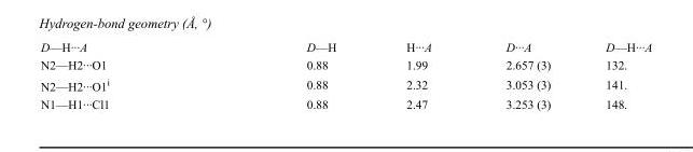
<table><tbody><tr><td>D—H···A</td><td>D—H</td><td>H···A</td><td>D···A</td><td>D—H···A</td></tr><tr><td>N2—H2···O1</td><td>0.88</td><td>1.99</td><td>2.657 (3)</td><td>132.</td></tr><tr><td>N2—H2···O1<sup>i</sup></td><td>0.88</td><td>2.32</td><td>3.053 (3)</td><td>141.</td></tr><tr><td>N1—H1···Cl1</td><td>0.88</td><td>2.47</td><td>3.253 (3)</td><td>148.</td></tr></tbody></table>